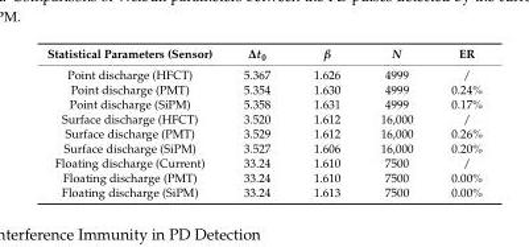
<table><thead><tr><td>Statistical Parameters (Sensor)</td><td>∆t0</td><td>β</td><td>N</td><td>ER</td></tr></thead><tbody><tr><td>Point discharge (HFCT)</td><td>5.367</td><td>1.626</td><td>4999</td><td>/</td></tr><tr><td>Point discharge (PMT)</td><td>5.354</td><td>1.630</td><td>4999</td><td>0.24%</td></tr><tr><td>Point discharge (SiPM)</td><td>5.358</td><td>1.631</td><td>4999</td><td>0.17%</td></tr><tr><td>Surface discharge (HFCT)</td><td>3.520</td><td>1.612</td><td>16,000</td><td>/</td></tr><tr><td>Surface discharge (PMT)</td><td>3.529</td><td>1.612</td><td>16,000</td><td>0.26%</td></tr><tr><td>Surface discharge (SiPM)</td><td>3.527</td><td>1.606</td><td>16,000</td><td>0.20%</td></tr><tr><td>Floating discharge (Current)</td><td>33.24</td><td>1.610</td><td>7500</td><td>/</td></tr><tr><td>Floating discharge (PMT)</td><td>33.24</td><td>1.610</td><td>7500</td><td>0.00%</td></tr><tr><td>Floating discharge (SiPM)</td><td>33.24</td><td>1.613</td><td>7500</td><td>0.00%</td></tr></tbody></table>